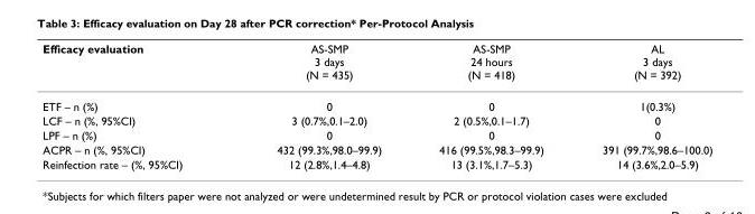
<table><thead><tr><td>Efficacy evaluation</td><td>AS-SMP 3 days (N = 435)</td><td>AS-SMP 24 hours (N = 418)</td><td>AL 3 days (N = 392)</td></tr></thead><tbody><tr><td>ETF – n (%)</td><td>0</td><td>0</td><td>1(0.3%)</td></tr><tr><td>LCF – n (%, 95%CI)</td><td>3 (0.7%,0.1–2.0)</td><td>2 (0.5%,0.1–1.7)</td><td>0</td></tr><tr><td>LPF – n (%)</td><td>0</td><td>0</td><td>0</td></tr><tr><td>ACPR – n (%, 95%CI)</td><td>432 (99.3%,98.0–99.9)</td><td>416 (99.5%,98.3–99.9)</td><td>391 (99.7%,98.6–100.0)</td></tr><tr><td>Reinfection rate – (%, 95%CI)</td><td>12 (2.8%,1.4–4.8)</td><td>13 (3.1%,1.7–5.3)</td><td>14 (3.6%,2.0–5.9)</td></tr></tbody></table>